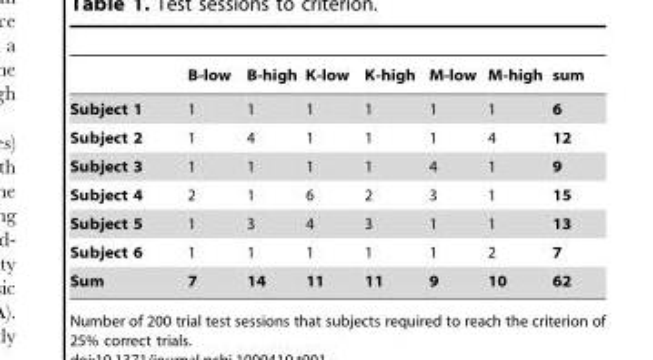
<table><thead><tr><td></td><td>B-low</td><td>B-high</td><td>K-low</td><td>K-high</td><td>M-low</td><td>M-high</td><td>sum</td></tr></thead><tbody><tr><td>Subject 1</td><td>1</td><td>1</td><td>1</td><td>1</td><td>1</td><td>1</td><td>6</td></tr><tr><td>Subject 2</td><td>1</td><td>4</td><td>1</td><td>1</td><td>1</td><td>4</td><td>12</td></tr><tr><td>Subject 3</td><td>1</td><td>1</td><td>1</td><td>1</td><td>4</td><td>1</td><td>9</td></tr><tr><td>Subject 4</td><td>2</td><td>1</td><td>6</td><td>2</td><td>3</td><td>1</td><td>15</td></tr><tr><td>Subject 5</td><td>1</td><td>3</td><td>4</td><td>3</td><td>1</td><td>1</td><td>13</td></tr><tr><td>Subject 6</td><td>1</td><td>1</td><td>1</td><td>1</td><td>1</td><td>2</td><td>7</td></tr><tr><td>Sum</td><td>7</td><td>14</td><td>11</td><td>11</td><td>9</td><td>10</td><td>62</td></tr></tbody></table>